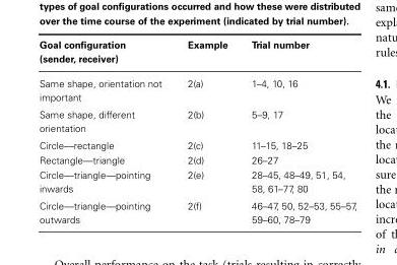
<table><thead><tr><td>Goal configuration (sender, receiver)</td><td>Example</td><td>Trial number</td></tr></thead><tbody><tr><td>Same shape, orientation not important</td><td>2(a)</td><td>1–4, 10, 16</td></tr><tr><td>Same shape, different orientation</td><td>2(b)</td><td>5–9, 17</td></tr><tr><td>Circle—rectangle</td><td>2(c)</td><td>11–15, 18–25</td></tr><tr><td>Rectangle—triangle</td><td>2(d)</td><td>26–27</td></tr><tr><td>Circle—triangle—pointing inwards</td><td>2(e)</td><td>28–45, 48–49, 51, 54, 58, 61–77, 80</td></tr><tr><td>Circle—triangle—pointing outwards</td><td>2(f)</td><td>46–47, 50, 52–53, 55–57, 59–60, 78–79</td></tr></tbody></table>